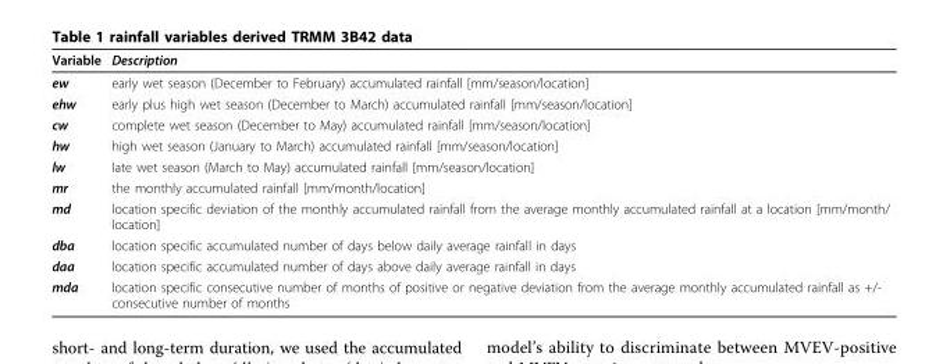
<table><thead><tr><td>Variable</td><td>Description</td></tr></thead><tbody><tr><td>ew</td><td>early wet season (December to February) accumulated rainfall [mm/season/location]</td></tr><tr><td>ehw</td><td>early plus high wet season (December to March) accumulated rainfall [mm/season/location]</td></tr><tr><td>cw</td><td>complete wet season (December to May) accumulated rainfall [mm/season/location]</td></tr><tr><td>hw</td><td>high wet season (January to March) accumulated rainfall [mm/season/location]</td></tr><tr><td>lw</td><td>late wet season (March to May) accumulated rainfall [mm/season/location]</td></tr><tr><td>mr</td><td>the monthly accumulated rainfall [mm/month/location]</td></tr><tr><td>md</td><td>location specific deviation of the monthly accumulated rainfall from the average monthly accumulated rainfall at a location [mm/month/ location]</td></tr><tr><td>dba</td><td>location specific accumulated number of days below daily average rainfall in days</td></tr><tr><td>daa</td><td>location specific accumulated number of days above daily average rainfall in days</td></tr><tr><td>mda</td><td>location specific consecutive number of months of positive or negative deviation from the average monthly accumulated rainfall as +/- consecutive number of months</td></tr></tbody></table>